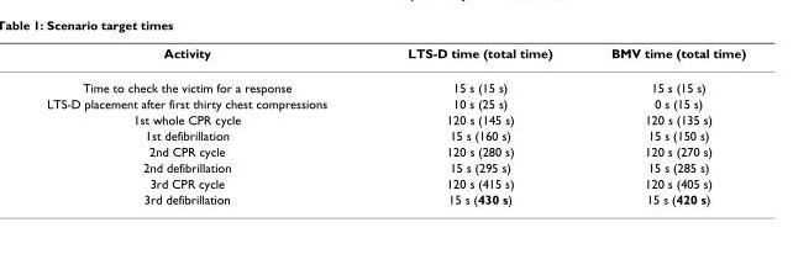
<table><thead><tr><td>Activity</td><td>LTS-D time (total time)</td><td>BMV time (total time)</td></tr></thead><tbody><tr><td>Time to check the victim for a response</td><td>15 s (15 s)</td><td>15 s (15 s)</td></tr><tr><td>LTS-D placement after first thirty chest compressions</td><td>10 s (25 s)</td><td>0 s (15 s)</td></tr><tr><td>1st whole CPR cycle</td><td>120 s (145 s)</td><td>120 s (135 s)</td></tr><tr><td>1st defibrillation</td><td>15 s (160 s)</td><td>15 s (150 s)</td></tr><tr><td>2nd CPR cycle</td><td>120 s (280 s)</td><td>120 s (270 s)</td></tr><tr><td>2nd defibrillation</td><td>15 s (295 s)</td><td>15 s (285 s)</td></tr><tr><td>3rd CPR cycle</td><td>120 s (415 s)</td><td>120 s (405 s)</td></tr><tr><td>3rd defibrillation</td><td>15 s (430 s)</td><td>15 s (420 s)</td></tr></tbody></table>